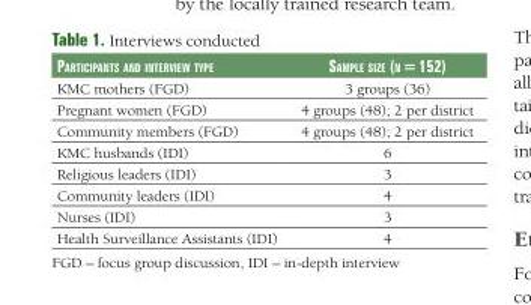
<table><thead><tr><td>ParticiPants and interview tyPe</td><td>samPle size (n = 152)</td></tr></thead><tbody><tr><td>KMC mothers (FGD)</td><td>3 groups (36)</td></tr><tr><td>Pregnant women (FGD)</td><td>4 groups (48); 2 per district</td></tr><tr><td>Community members (FGD)</td><td>4 groups (48); 2 per district</td></tr><tr><td>KMC husbands (IDI)</td><td>6</td></tr><tr><td>Religious leaders (IDI)</td><td>3</td></tr><tr><td>Community leaders (IDI)</td><td>4</td></tr><tr><td>Nurses (IDI)</td><td>3</td></tr><tr><td>Health Surveillance Assistants (IDI)</td><td>4</td></tr></tbody></table>